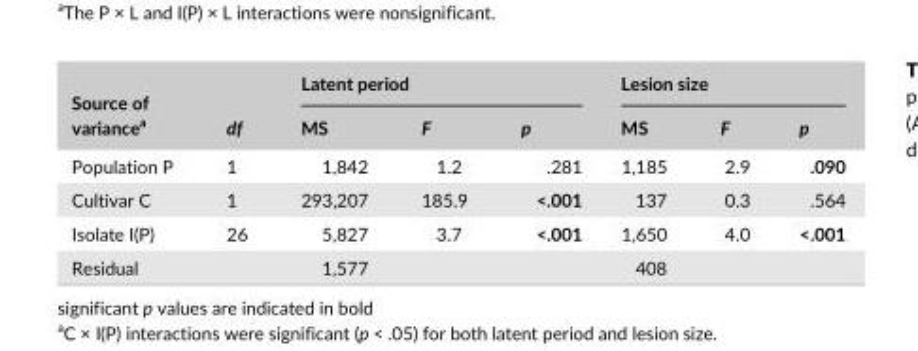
<table><thead><tr><td rowspan="2">Source of variance<sup>a</sup></td><td rowspan="2">df</td><td colspan="3">Latent period</td><td colspan="3">Lesion size</td></tr><tr><td>MS</td><td>F</td><td>p</td><td>MS</td><td>F</td><td>p</td></tr></thead><tbody><tr><td>Population P</td><td>1</td><td>1,842</td><td>1.2</td><td>.281</td><td>1,185</td><td>2.9</td><td>.090</td></tr><tr><td>Cultivar C</td><td>1</td><td>293,207</td><td>185.9</td><td>&lt;.001</td><td>137</td><td>0.3</td><td>.564</td></tr><tr><td>Isolate I(P)</td><td>26</td><td>5,827</td><td>3.7</td><td>&lt;.001</td><td>1,650</td><td>4.0</td><td>&lt;.001</td></tr><tr><td>Residual</td><td></td><td>1,577</td><td></td><td></td><td>408</td><td></td><td></td></tr></tbody></table>